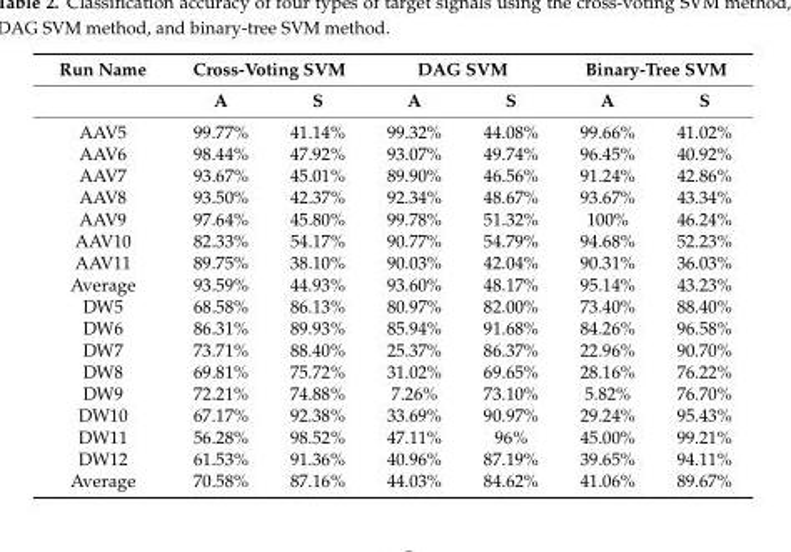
<table><thead><tr><td rowspan="2">Run Name</td><td colspan="2">Cross-Voting SVM</td><td colspan="2">DAG SVM</td><td colspan="2">Binary-Tree SVM</td></tr><tr><td>A</td><td>S</td><td>A</td><td>S</td><td>A</td><td>S</td></tr></thead><tbody><tr><td>AAV5</td><td>99.77%</td><td>41.14%</td><td>99.32%</td><td>44.08%</td><td>99.66%</td><td>41.02%</td></tr><tr><td>AAV6</td><td>98.44%</td><td>47.92%</td><td>93.07%</td><td>49.74%</td><td>96.45%</td><td>40.92%</td></tr><tr><td>AAV7</td><td>93.67%</td><td>45.01%</td><td>89.90%</td><td>46.56%</td><td>91.24%</td><td>42.86%</td></tr><tr><td>AAV8</td><td>93.50%</td><td>42.37%</td><td>92.34%</td><td>48.67%</td><td>93.67%</td><td>43.34%</td></tr><tr><td>AAV9</td><td>97.64%</td><td>45.80%</td><td>99.78%</td><td>51.32%</td><td>100%</td><td>46.24%</td></tr><tr><td>AAV10</td><td>82.33%</td><td>54.17%</td><td>90.77%</td><td>54.79%</td><td>94.68%</td><td>52.23%</td></tr><tr><td>AAV11</td><td>89.75%</td><td>38.10%</td><td>90.03%</td><td>42.04%</td><td>90.31%</td><td>36.03%</td></tr><tr><td>Average</td><td>93.59%</td><td>44.93%</td><td>93.60%</td><td>48.17%</td><td>95.14%</td><td>43.23%</td></tr><tr><td>DW5</td><td>68.58%</td><td>86.13%</td><td>80.97%</td><td>82.00%</td><td>73.40%</td><td>88.40%</td></tr><tr><td>DW6</td><td>86.31%</td><td>89.93%</td><td>85.94%</td><td>91.68%</td><td>84.26%</td><td>96.58%</td></tr><tr><td>DW7</td><td>73.71%</td><td>88.40%</td><td>25.37%</td><td>86.37%</td><td>22.96%</td><td>90.70%</td></tr><tr><td>DW8</td><td>69.81%</td><td>75.72%</td><td>31.02%</td><td>69.65%</td><td>28.16%</td><td>76.22%</td></tr><tr><td>DW9</td><td>72.21%</td><td>74.88%</td><td>7.26%</td><td>73.10%</td><td>5.82%</td><td>76.70%</td></tr><tr><td>DW10</td><td>67.17%</td><td>92.38%</td><td>33.69%</td><td>90.97%</td><td>29.24%</td><td>95.43%</td></tr><tr><td>DW11</td><td>56.28%</td><td>98.52%</td><td>47.11%</td><td>96%</td><td>45.00%</td><td>99.21%</td></tr><tr><td>DW12</td><td>61.53%</td><td>91.36%</td><td>40.96%</td><td>87.19%</td><td>39.65%</td><td>94.11%</td></tr><tr><td>Average</td><td>70.58%</td><td>87.16%</td><td>44.03%</td><td>84.62%</td><td>41.06%</td><td>89.67%</td></tr></tbody></table>